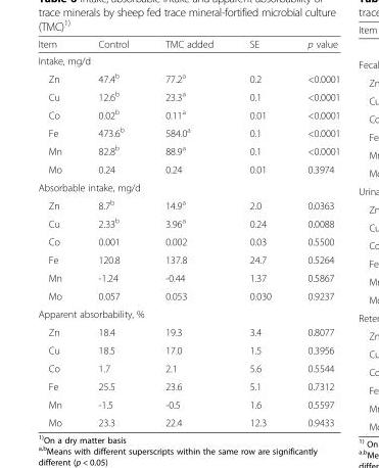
<table><thead><tr><td>Item</td><td>Control</td><td>TMC added</td><td>SE</td><td>p value</td></tr></thead><tbody><tr><td colspan="5">Intake, mg/d</td></tr><tr><td>Zn</td><td>47.4<sup>b</sup></td><td>77.2<sup>a</sup></td><td>0.2</td><td>&lt;0.0001</td></tr><tr><td>Cu</td><td>12.6<sup>b</sup></td><td>23.3<sup>a</sup></td><td>0.1</td><td>&lt;0.0001</td></tr><tr><td>Co</td><td>0.02<sup>b</sup></td><td>0.11<sup>a</sup></td><td>0.01</td><td>&lt;0.0001</td></tr><tr><td>Fe</td><td>473.6<sup>b</sup></td><td>584.0<sup>a</sup></td><td>0.1</td><td>&lt;0.0001</td></tr><tr><td>Mn</td><td>82.8<sup>b</sup></td><td>88.9<sup>a</sup></td><td>0.1</td><td>&lt;0.0001</td></tr><tr><td>Mo</td><td>0.24</td><td>0.24</td><td>0.01</td><td>0.3974</td></tr><tr><td colspan="5">Absorbable intake, mg/d</td></tr><tr><td>Zn</td><td>8.7<sup>b</sup></td><td>14.9<sup>a</sup></td><td>2.0</td><td>0.0363</td></tr><tr><td>Cu</td><td>2.33<sup>b</sup></td><td>3.96<sup>a</sup></td><td>0.24</td><td>0.0088</td></tr><tr><td>Co</td><td>0.001</td><td>0.002</td><td>0.03</td><td>0.5500</td></tr><tr><td>Fe</td><td>120.8</td><td>137.8</td><td>24.7</td><td>0.5264</td></tr><tr><td>Mn</td><td>-1.24</td><td>-0.44</td><td>1.37</td><td>0.5867</td></tr><tr><td>Mo</td><td>0.057</td><td>0.053</td><td>0.030</td><td>0.9237</td></tr><tr><td colspan="5">Apparent absorbability, %</td></tr><tr><td>Zn</td><td>18.4</td><td>19.3</td><td>3.4</td><td>0.8077</td></tr><tr><td>Cu</td><td>18.5</td><td>17.0</td><td>1.5</td><td>0.3956</td></tr><tr><td>Co</td><td>1.7</td><td>2.1</td><td>5.6</td><td>0.5544</td></tr><tr><td>Fe</td><td>25.5</td><td>23.6</td><td>5.1</td><td>0.7312</td></tr><tr><td>Mn</td><td>-1.5</td><td>-0.5</td><td>1.6</td><td>0.5597</td></tr><tr><td>Mo</td><td>23.3</td><td>22.4</td><td>12.3</td><td>0.9433</td></tr></tbody></table>